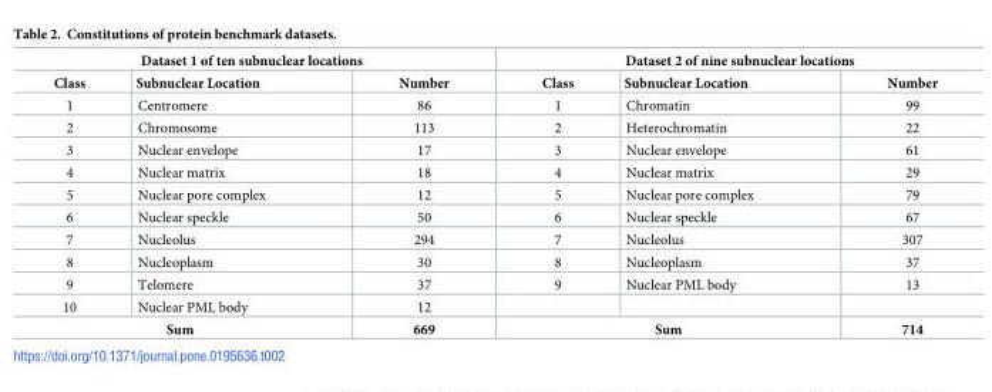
<table><thead><tr><td colspan="3">Dataset 1 of ten subnuclear locations</td><td colspan="3">Dataset 2 of nine subnuclear locations</td></tr><tr><td>Class</td><td>Subnuclear Location</td><td>Number</td><td>Class</td><td>Subnuclear Location</td><td>Number</td></tr></thead><tbody><tr><td>1</td><td>Centromere</td><td>86</td><td>1</td><td>Chromatin</td><td>99</td></tr><tr><td>2</td><td>Chromosome</td><td>113</td><td>2</td><td>Heterochromatin</td><td>22</td></tr><tr><td>3</td><td>Nuclear envelope</td><td>17</td><td>3</td><td>Nuclear envelope</td><td>61</td></tr><tr><td>4</td><td>Nuclear matrix</td><td>18</td><td>4</td><td>Nuclear matrix</td><td>29</td></tr><tr><td>5</td><td>Nuclear pore complex</td><td>12</td><td>5</td><td>Nuclear pore complex</td><td>79</td></tr><tr><td>6</td><td>Nuclear speckle</td><td>50</td><td>6</td><td>Nuclear speckle</td><td>67</td></tr><tr><td>7</td><td>Nucleolus</td><td>294</td><td>7</td><td>Nucleolus</td><td>307</td></tr><tr><td>8</td><td>Nucleoplasm</td><td>30</td><td>8</td><td>Nucleoplasm</td><td>37</td></tr><tr><td>9</td><td>Telomere</td><td>37</td><td>9</td><td>Nuclear PML body</td><td>13</td></tr><tr><td>10</td><td>Nuclear PML body</td><td>12</td><td></td><td></td><td></td></tr><tr><td colspan="2">Sum</td><td>669</td><td colspan="2">Sum</td><td>714</td></tr></tbody></table>